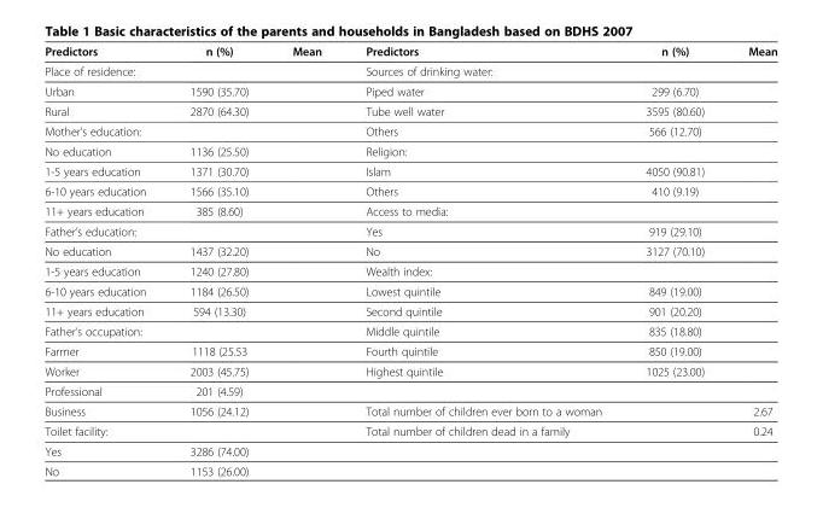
<table><thead><tr><td>Predictors</td><td>n (%)</td><td>Mean</td><td>Predictors</td><td>n (%)</td><td>Mean</td></tr></thead><tbody><tr><td>Place of residence:</td><td></td><td></td><td>Sources of drinking water:</td><td></td><td></td></tr><tr><td>Urban</td><td>1590 (35.70)</td><td></td><td>Piped water</td><td>299 (6.70)</td><td></td></tr><tr><td>Rural</td><td>2870 (64.30)</td><td></td><td>Tube well water</td><td>3595 (80.60)</td><td></td></tr><tr><td>Mother’s education:</td><td></td><td></td><td>Others</td><td>566 (12.70)</td><td></td></tr><tr><td>No education</td><td>1136 (25.50)</td><td></td><td>Religion:</td><td></td><td></td></tr><tr><td>1-5 years education</td><td>1371 (30.70)</td><td></td><td>Islam</td><td>4050 (90.81)</td><td></td></tr><tr><td>6-10 years education</td><td>1566 (35.10)</td><td></td><td>Others</td><td>410 (9.19)</td><td></td></tr><tr><td>11+ years education</td><td>385 (8.60)</td><td></td><td>Access to media:</td><td></td><td></td></tr><tr><td>Father’s education:</td><td></td><td></td><td>Yes</td><td>919 (29.10)</td><td></td></tr><tr><td>No education</td><td>1437 (32.20)</td><td></td><td>No</td><td>3127 (70.10)</td><td></td></tr><tr><td>1-5 years education</td><td>1240 (27.80)</td><td></td><td>Wealth index:</td><td></td><td></td></tr><tr><td>6-10 years education</td><td>1184 (26.50)</td><td></td><td>Lowest quintile</td><td>849 (19.00)</td><td></td></tr><tr><td>11+ years education</td><td>594 (13.30)</td><td></td><td>Second quintile</td><td>901 (20.20)</td><td></td></tr><tr><td>Father’s occupation:</td><td></td><td></td><td>Middle quintile</td><td>835 (18.80)</td><td></td></tr><tr><td>Farmer</td><td>1118 (25.53</td><td></td><td>Fourth quintile</td><td>850 (19.00)</td><td></td></tr><tr><td>Worker</td><td>2003 (45.75)</td><td></td><td>Highest quintile</td><td>1025 (23.00)</td><td></td></tr><tr><td>Professional</td><td>201 (4.59)</td><td></td><td></td><td></td><td></td></tr><tr><td>Business</td><td>1056 (24.12)</td><td></td><td>Total number of children ever born to a woman</td><td></td><td>2.67</td></tr><tr><td>Toilet facility:</td><td></td><td></td><td>Total number of children dead in a family</td><td></td><td>0.24</td></tr><tr><td>Yes</td><td>3286 (74.00)</td><td></td><td></td><td></td><td></td></tr><tr><td>No</td><td>1153 (26.00)</td><td></td><td></td><td></td><td></td></tr></tbody></table>